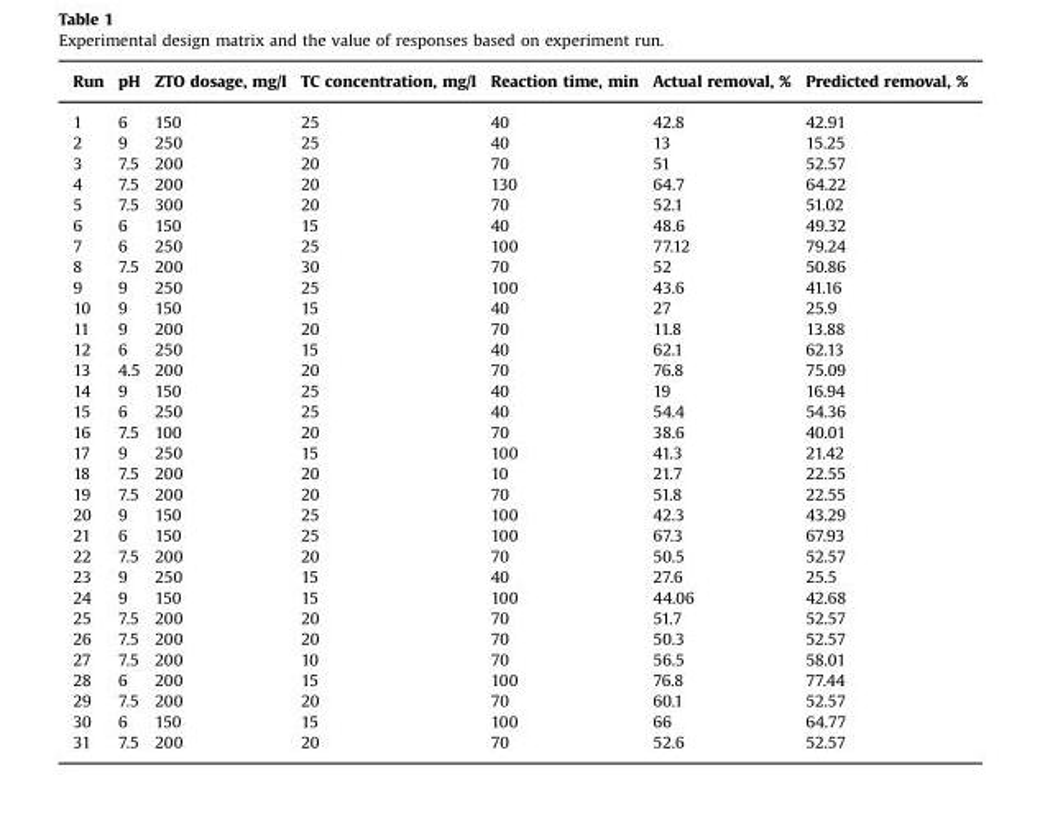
<table><thead><tr><td>Run</td><td>pH</td><td>ZTO dosage, mg/l</td><td>TC concentration, mg/l</td><td>Reaction time, min</td><td>Actual removal, %</td><td>Predicted removal, %</td></tr></thead><tbody><tr><td>1</td><td>6</td><td>150</td><td>25</td><td>40</td><td>42.8</td><td>42.91</td></tr><tr><td>2</td><td>9</td><td>250</td><td>25</td><td>40</td><td>13</td><td>15.25</td></tr><tr><td>3</td><td>7.5</td><td>200</td><td>20</td><td>70</td><td>51</td><td>52.57</td></tr><tr><td>4</td><td>7.5</td><td>200</td><td>20</td><td>130</td><td>64.7</td><td>64.22</td></tr><tr><td>5</td><td>7.5</td><td>300</td><td>20</td><td>70</td><td>52.1</td><td>51.02</td></tr><tr><td>6</td><td>6</td><td>150</td><td>15</td><td>40</td><td>48.6</td><td>49.32</td></tr><tr><td>7</td><td>6</td><td>250</td><td>25</td><td>100</td><td>77.12</td><td>79.24</td></tr><tr><td>8</td><td>7.5</td><td>200</td><td>30</td><td>70</td><td>52</td><td>50.86</td></tr><tr><td>9</td><td>9</td><td>250</td><td>25</td><td>100</td><td>43.6</td><td>41.16</td></tr><tr><td>10</td><td>9</td><td>150</td><td>15</td><td>40</td><td>27</td><td>25.9</td></tr><tr><td>11</td><td>9</td><td>200</td><td>20</td><td>70</td><td>11.8</td><td>13.88</td></tr><tr><td>12</td><td>6</td><td>250</td><td>15</td><td>40</td><td>62.1</td><td>62.13</td></tr><tr><td>13</td><td>4.5</td><td>200</td><td>20</td><td>70</td><td>76.8</td><td>75.09</td></tr><tr><td>14</td><td>9</td><td>150</td><td>25</td><td>40</td><td>19</td><td>16.94</td></tr><tr><td>15</td><td>6</td><td>250</td><td>25</td><td>40</td><td>54.4</td><td>54.36</td></tr><tr><td>16</td><td>7.5</td><td>100</td><td>20</td><td>70</td><td>38.6</td><td>40.01</td></tr><tr><td>17</td><td>9</td><td>250</td><td>15</td><td>100</td><td>41.3</td><td>21.42</td></tr><tr><td>18</td><td>7.5</td><td>200</td><td>20</td><td>10</td><td>21.7</td><td>22.55</td></tr><tr><td>19</td><td>7.5</td><td>200</td><td>20</td><td>70</td><td>51.8</td><td>22.55</td></tr><tr><td>20</td><td>9</td><td>150</td><td>25</td><td>100</td><td>42.3</td><td>43.29</td></tr><tr><td>21</td><td>6</td><td>150</td><td>25</td><td>100</td><td>67.3</td><td>67.93</td></tr><tr><td>22</td><td>7.5</td><td>200</td><td>20</td><td>70</td><td>50.5</td><td>52.57</td></tr><tr><td>23</td><td>9</td><td>250</td><td>15</td><td>40</td><td>27.6</td><td>25.5</td></tr><tr><td>24</td><td>9</td><td>150</td><td>15</td><td>100</td><td>44.06</td><td>42.68</td></tr><tr><td>25</td><td>7.5</td><td>200</td><td>20</td><td>70</td><td>51.7</td><td>52.57</td></tr><tr><td>26</td><td>7.5</td><td>200</td><td>20</td><td>70</td><td>50.3</td><td>52.57</td></tr><tr><td>27</td><td>7.5</td><td>200</td><td>10</td><td>70</td><td>56.5</td><td>58.01</td></tr><tr><td>28</td><td>6</td><td>200</td><td>15</td><td>100</td><td>76.8</td><td>77.44</td></tr><tr><td>29</td><td>7.5</td><td>200</td><td>20</td><td>70</td><td>60.1</td><td>52.57</td></tr><tr><td>30</td><td>6</td><td>150</td><td>15</td><td>100</td><td>66</td><td>64.77</td></tr><tr><td>31</td><td>7.5</td><td>200</td><td>20</td><td>70</td><td>52.6</td><td>52.57</td></tr></tbody></table>